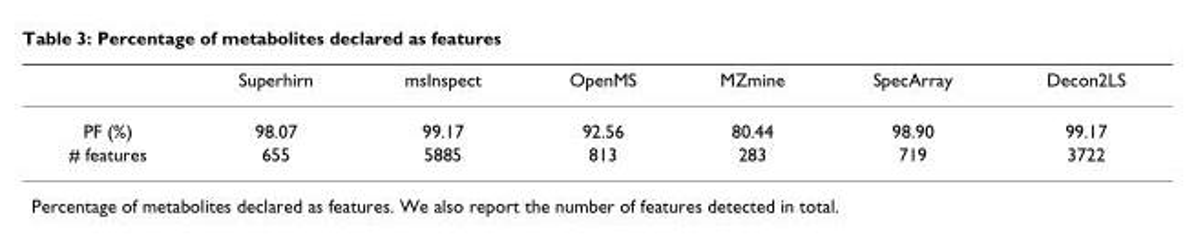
<table><thead><tr><td></td><td>Superhirn</td><td>msInspect</td><td>OpenMS</td><td>MZmine</td><td>SpecArray</td><td>Decon2LS</td></tr></thead><tbody><tr><td>PF (%)</td><td>98.07</td><td>99.17</td><td>92.56</td><td>80.44</td><td>98.90</td><td>99.17</td></tr><tr><td># features</td><td>655</td><td>5885</td><td>813</td><td>283</td><td>719</td><td>3722</td></tr></tbody></table>